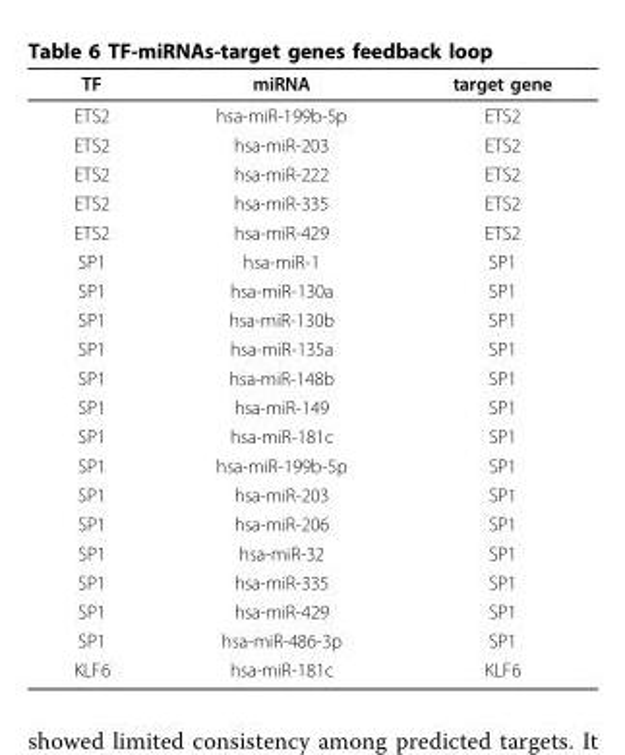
<table><thead><tr><td>TF</td><td>miRNA</td><td>target gene</td></tr></thead><tbody><tr><td>ETS2</td><td>hsa-miR-199b-5p</td><td>ETS2</td></tr><tr><td>ETS2</td><td>hsa-miR-203</td><td>ETS2</td></tr><tr><td>ETS2</td><td>hsa-miR-222</td><td>ETS2</td></tr><tr><td>ETS2</td><td>hsa-miR-335</td><td>ETS2</td></tr><tr><td>ETS2</td><td>hsa-miR-429</td><td>ETS2</td></tr><tr><td>SP1</td><td>hsa-miR-1</td><td>SP1</td></tr><tr><td>SP1</td><td>hsa-miR-130a</td><td>SP1</td></tr><tr><td>SP1</td><td>hsa-miR-130b</td><td>SP1</td></tr><tr><td>SP1</td><td>hsa-miR-135a</td><td>SP1</td></tr><tr><td>SP1</td><td>hsa-miR-148b</td><td>SP1</td></tr><tr><td>SP1</td><td>hsa-miR-149</td><td>SP1</td></tr><tr><td>SP1</td><td>hsa-miR-181c</td><td>SP1</td></tr><tr><td>SP1</td><td>hsa-miR-199b-5p</td><td>SP1</td></tr><tr><td>SP1</td><td>hsa-miR-203</td><td>SP1</td></tr><tr><td>SP1</td><td>hsa-miR-206</td><td>SP1</td></tr><tr><td>SP1</td><td>hsa-miR-32</td><td>SP1</td></tr><tr><td>SP1</td><td>hsa-miR-335</td><td>SP1</td></tr><tr><td>SP1</td><td>hsa-miR-429</td><td>SP1</td></tr><tr><td>SP1</td><td>hsa-miR-486-3p</td><td>SP1</td></tr><tr><td>KLF6</td><td>hsa-miR-181c</td><td>KLF6</td></tr></tbody></table>